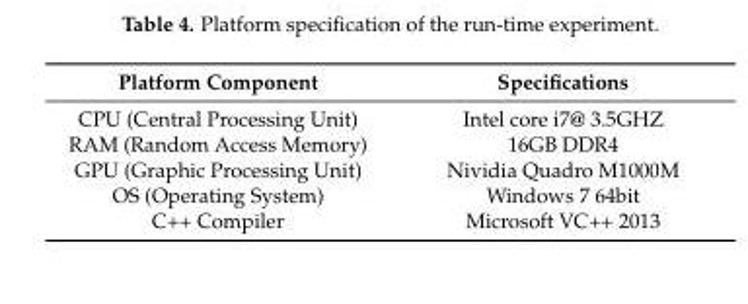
<table><thead><tr><td>Platform Component</td><td>Specifications</td></tr></thead><tbody><tr><td>CPU (Central Processing Unit)</td><td>Intel core i7@ 3.5GHZ</td></tr><tr><td>RAM (Random Access Memory)</td><td>16GB DDR4</td></tr><tr><td>GPU (Graphic Processing Unit)</td><td>Nividia Quadro M1000M</td></tr><tr><td>OS (Operating System)</td><td>Windows 7 64bit</td></tr><tr><td>C++ Compiler</td><td>Microsoft VC++ 2013</td></tr></tbody></table>